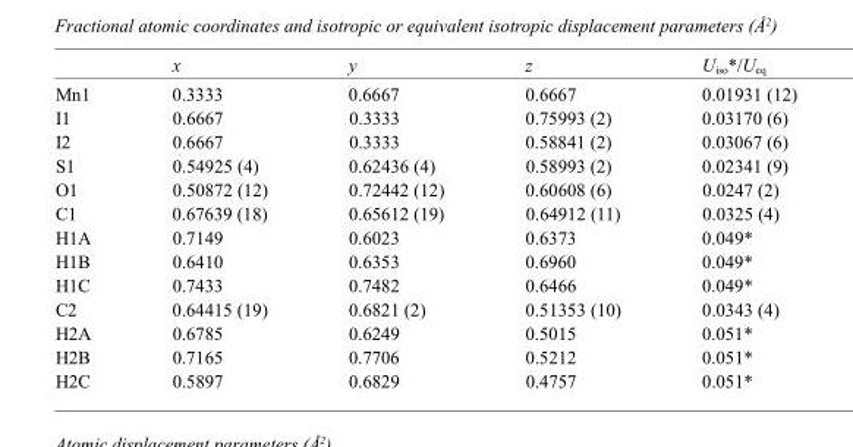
<table><thead><tr><td></td><td>x</td><td>y</td><td>z</td><td>U<sub>iso</sub>*/U<sub>eq</sub></td></tr></thead><tbody><tr><td>Mn1</td><td>0.3333</td><td>0.6667</td><td>0.6667</td><td>0.01931 (12)</td></tr><tr><td>I1</td><td>0.6667</td><td>0.3333</td><td>0.75993 (2)</td><td>0.03170 (6)</td></tr><tr><td>I2</td><td>0.6667</td><td>0.3333</td><td>0.58841 (2)</td><td>0.03067 (6)</td></tr><tr><td>S1</td><td>0.54925 (4)</td><td>0.62436 (4)</td><td>0.58993 (2)</td><td>0.02341 (9)</td></tr><tr><td>O1</td><td>0.50872 (12)</td><td>0.72442 (12)</td><td>0.60608 (6)</td><td>0.0247 (2)</td></tr><tr><td>C1</td><td>0.67639 (18)</td><td>0.65612 (19)</td><td>0.64912 (11)</td><td>0.0325 (4)</td></tr><tr><td>H1A</td><td>0.7149</td><td>0.6023</td><td>0.6373</td><td>0.049*</td></tr><tr><td>H1B</td><td>0.6410</td><td>0.6353</td><td>0.6960</td><td>0.049*</td></tr><tr><td>H1C</td><td>0.7433</td><td>0.7482</td><td>0.6466</td><td>0.049*</td></tr><tr><td>C2</td><td>0.64415 (19)</td><td>0.6821 (2)</td><td>0.51353 (10)</td><td>0.0343 (4)</td></tr><tr><td>H2A</td><td>0.6785</td><td>0.6249</td><td>0.5015</td><td>0.051*</td></tr><tr><td>H2B</td><td>0.7165</td><td>0.7706</td><td>0.5212</td><td>0.051*</td></tr><tr><td>H2C</td><td>0.5897</td><td>0.6829</td><td>0.4757</td><td>0.051*</td></tr></tbody></table>